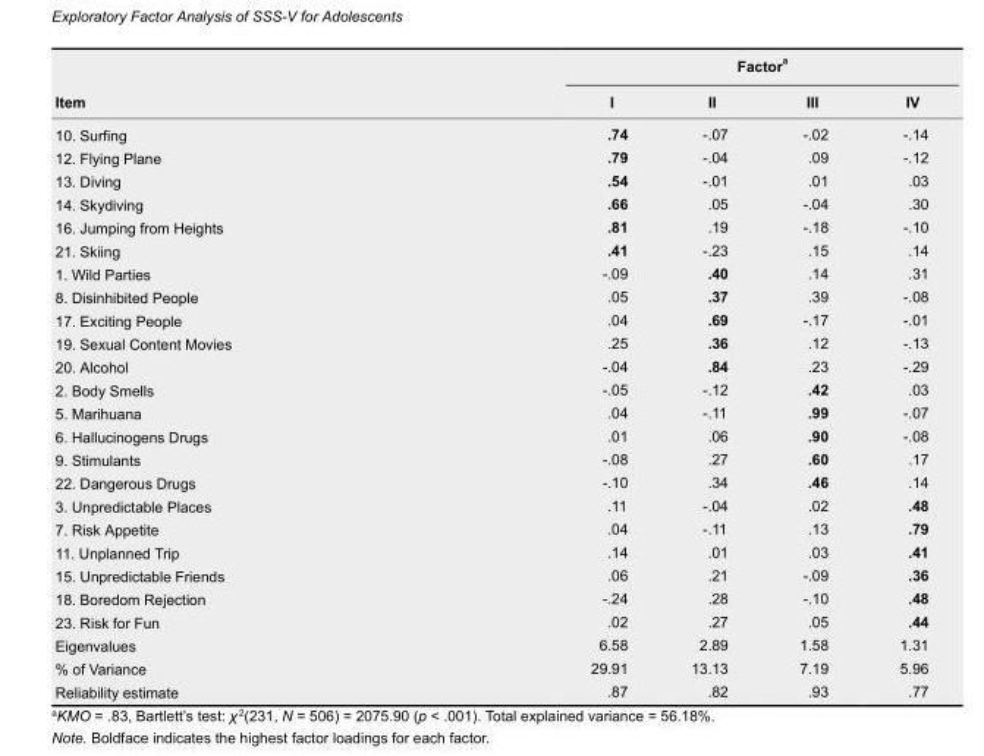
<table><thead><tr><td rowspan="2">Item</td><td colspan="4">Factor <sup>a</sup></td></tr><tr><td>I</td><td>II</td><td>III</td><td>IV</td></tr></thead><tbody><tr><td>10. Surfing</td><td>.74</td><td>-.07</td><td>-.02</td><td>-.14</td></tr><tr><td>12. Flying Plane</td><td>.79</td><td>-.04</td><td>.09</td><td>-.12</td></tr><tr><td>13. Diving</td><td>.54</td><td>-.01</td><td>.01</td><td>.03</td></tr><tr><td>14. Skydiving</td><td>.66</td><td>.05</td><td>-.04</td><td>.30</td></tr><tr><td>16. Jumping from Heights</td><td>.81</td><td>.19</td><td>-.18</td><td>-.10</td></tr><tr><td>21. Skiing</td><td>.41</td><td>-.23</td><td>.15</td><td>.14</td></tr><tr><td>1. Wild Parties</td><td>-.09</td><td>.40</td><td>.14</td><td>.31</td></tr><tr><td>8. Disinhibited People</td><td>.05</td><td>.37</td><td>.39</td><td>-.08</td></tr><tr><td>17. Exciting People</td><td>.04</td><td>.69</td><td>-.17</td><td>-.01</td></tr><tr><td>19. Sexual Content Movies</td><td>.25</td><td>.36</td><td>.12</td><td>-.13</td></tr><tr><td>20. Alcohol</td><td>-.04</td><td>.84</td><td>.23</td><td>-.29</td></tr><tr><td>2. Body Smells</td><td>-.05</td><td>-.12</td><td>.42</td><td>.03</td></tr><tr><td>5. Marihuana</td><td>.04</td><td>-.11</td><td>.99</td><td>-.07</td></tr><tr><td>6. Hallucinogens Drugs</td><td>.01</td><td>.06</td><td>.90</td><td>-.08</td></tr><tr><td>9. Stimulants</td><td>-.08</td><td>.27</td><td>.60</td><td>.17</td></tr><tr><td>22. Dangerous Drugs</td><td>-.10</td><td>.34</td><td>.46</td><td>.14</td></tr><tr><td>3. Unpredictable Places</td><td>.11</td><td>-.04</td><td>.02</td><td>.48</td></tr><tr><td>7. Risk Appetite</td><td>.04</td><td>-.11</td><td>.13</td><td>.79</td></tr><tr><td>11. Unplanned Trip</td><td>.14</td><td>.01</td><td>.03</td><td>.41</td></tr><tr><td>15. Unpredictable Friends</td><td>.06</td><td>.21</td><td>-.09</td><td>.36</td></tr><tr><td>18. Boredom Rejection</td><td>-.24</td><td>.28</td><td>-.10</td><td>.48</td></tr><tr><td>23. Risk for Fun</td><td>.02</td><td>.27</td><td>.05</td><td>.44</td></tr><tr><td>Eigenvalues</td><td>6.58</td><td>2.89</td><td>1.58</td><td>1.31</td></tr><tr><td>% of Variance</td><td>29.91</td><td>13.13</td><td>7.19</td><td>5.96</td></tr><tr><td>Reliability estimate</td><td>.87</td><td>.82</td><td>.93</td><td>.77</td></tr></tbody></table>